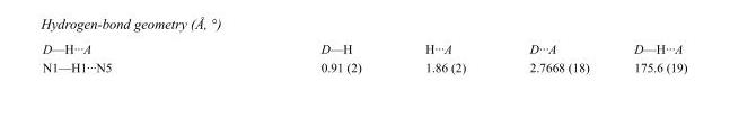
<table><tbody><tr><td>D—H···A</td><td>D—H</td><td>H···A</td><td>D···A</td><td>D—H···A</td></tr><tr><td>N1—H1···N5</td><td>0.91 (2)</td><td>1.86 (2)</td><td>2.7668 (18)</td><td>175.6 (19)</td></tr></tbody></table>